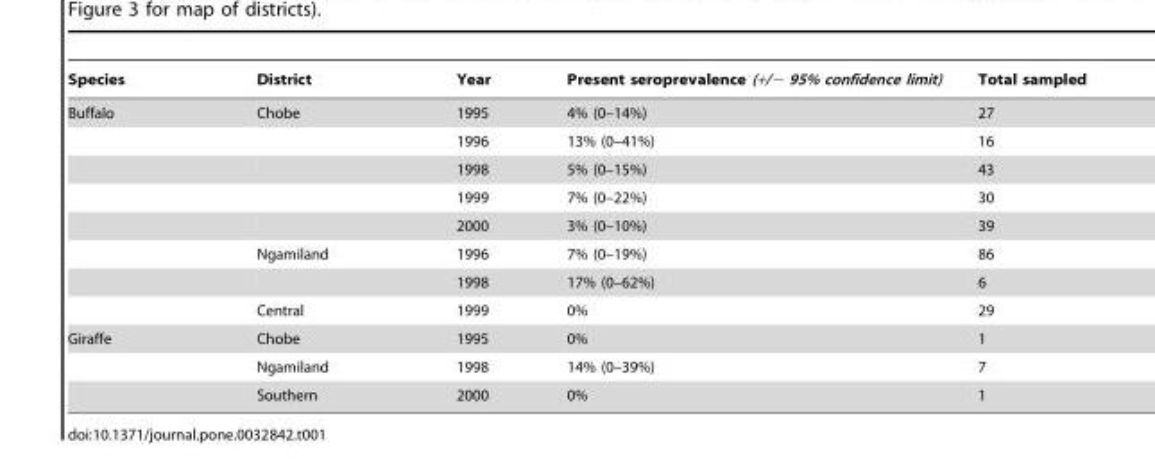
<table><thead><tr><td>Species</td><td>District</td><td>Year</td><td>Present seroprevalence (+/− 95% confidence limit)</td><td>Total sampled</td></tr></thead><tbody><tr><td rowspan="8">Buffalo</td><td>Chobe</td><td>1995</td><td>4% (0–14%)</td><td>27</td></tr><tr><td></td><td>1996</td><td>13% (0–41%)</td><td>16</td></tr><tr><td></td><td>1998</td><td>5% (0–15%)</td><td>43</td></tr><tr><td></td><td>1999</td><td>7% (0–22%)</td><td>30</td></tr><tr><td></td><td>2000</td><td>3% (0–10%)</td><td>39</td></tr><tr><td>Ngamiland</td><td>1996</td><td>7% (0–19%)</td><td>86</td></tr><tr><td></td><td>1998</td><td>17% (0–62%)</td><td>6</td></tr><tr><td>Central</td><td>1999</td><td>0%</td><td>29</td></tr><tr><td rowspan="3">Giraffe</td><td>Chobe</td><td>1995</td><td>0%</td><td>1</td></tr><tr><td>Ngamiland</td><td>1998</td><td>14% (0–39%)</td><td>7</td></tr><tr><td>Southern</td><td>2000</td><td>0%</td><td>1</td></tr></tbody></table>